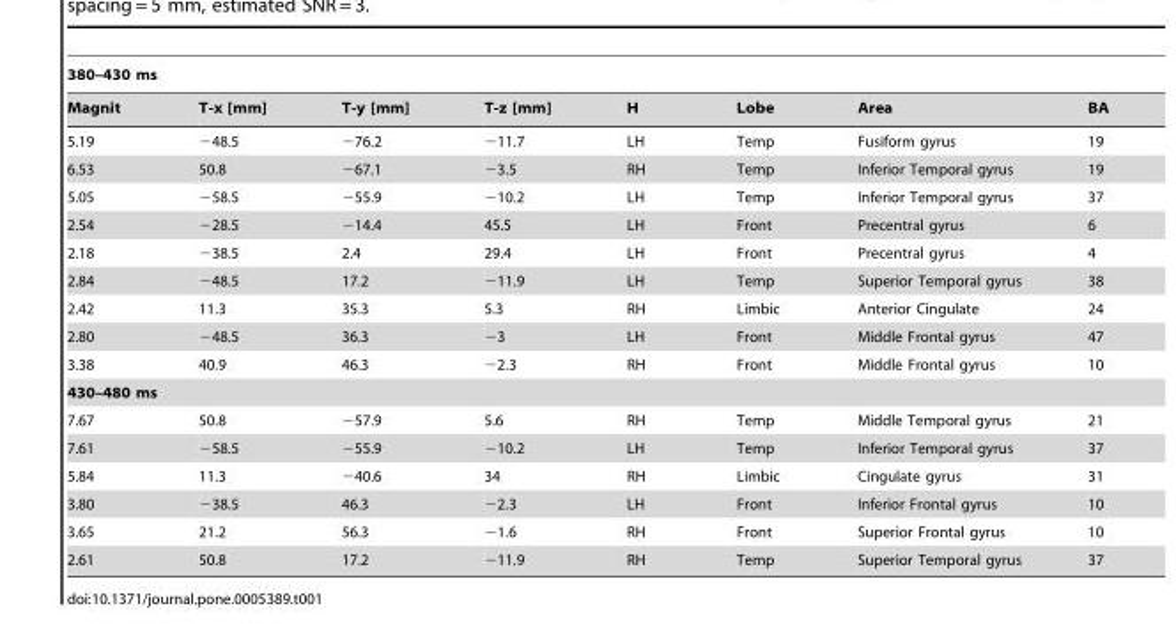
<table><thead><tr><td colspan="8">380–430 ms</td></tr><tr><td>Magnit</td><td>T-x [mm]</td><td>T-y [mm]</td><td>T-z [mm]</td><td>H</td><td>Lobe</td><td>Area</td><td>BA</td></tr></thead><tbody><tr><td>5.19</td><td>−48.5</td><td>−76.2</td><td>−11.7</td><td>LH</td><td>Temp</td><td>Fusiform gyrus</td><td>19</td></tr><tr><td>6.53</td><td>50.8</td><td>−67.1</td><td>−3.5</td><td>RH</td><td>Temp</td><td>Inferior Temporal gyrus</td><td>19</td></tr><tr><td>5.05</td><td>−58.5</td><td>−55.9</td><td>−10.2</td><td>LH</td><td>Temp</td><td>Inferior Temporal gyrus</td><td>37</td></tr><tr><td>2.54</td><td>−28.5</td><td>−14.4</td><td>45.5</td><td>LH</td><td>Front</td><td>Precentral gyrus</td><td>6</td></tr><tr><td>2.18</td><td>−38.5</td><td>2.4</td><td>29.4</td><td>LH</td><td>Front</td><td>Precentral gyrus</td><td>4</td></tr><tr><td>2.84</td><td>−48.5</td><td>17.2</td><td>−11.9</td><td>LH</td><td>Temp</td><td>Superior Temporal gyrus</td><td>38</td></tr><tr><td>2.42</td><td>11.3</td><td>35.3</td><td>5.3</td><td>RH</td><td>Limbic</td><td>Anterior Cingulate</td><td>24</td></tr><tr><td>2.80</td><td>−48.5</td><td>36.3</td><td>−3</td><td>LH</td><td>Front</td><td>Middle Frontal gyrus</td><td>47</td></tr><tr><td>3.38</td><td>40.9</td><td>46.3</td><td>−2.3</td><td>RH</td><td>Front</td><td>Middle Frontal gyrus</td><td>10</td></tr><tr><td colspan="8">430–480 ms</td></tr><tr><td>7.67</td><td>50.8</td><td>−57.9</td><td>5.6</td><td>RH</td><td>Temp</td><td>Middle Temporal gyrus</td><td>21</td></tr><tr><td>7.61</td><td>−58.5</td><td>−55.9</td><td>−10.2</td><td>LH</td><td>Temp</td><td>Inferior Temporal gyrus</td><td>37</td></tr><tr><td>5.84</td><td>11.3</td><td>−40.6</td><td>34</td><td>RH</td><td>Limbic</td><td>Cingulate gyrus</td><td>31</td></tr><tr><td>3.80</td><td>−38.5</td><td>46.3</td><td>−2.3</td><td>LH</td><td>Front</td><td>Inferior Frontal gyrus</td><td>10</td></tr><tr><td>3.65</td><td>21.2</td><td>56.3</td><td>−1.6</td><td>RH</td><td>Front</td><td>Superior Frontal gyrus</td><td>10</td></tr><tr><td>2.61</td><td>50.8</td><td>17.2</td><td>−11.9</td><td>RH</td><td>Temp</td><td>Superior Temporal gyrus</td><td>37</td></tr></tbody></table>